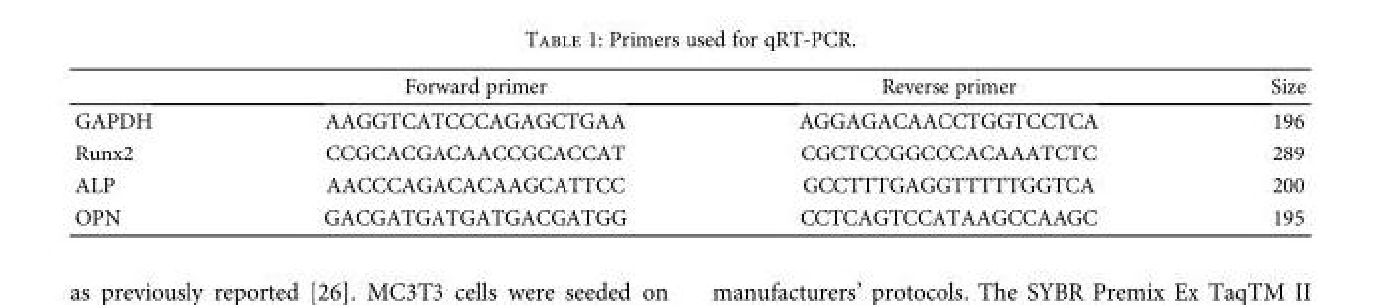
<table><thead><tr><td></td><td>Forward primer</td><td>Reverse primer</td><td>Size</td></tr></thead><tbody><tr><td>GAPDH</td><td>AAGGTCATCCCAGAGCTGAA</td><td>AGGAGACAACCTGGTCCTCA</td><td>196</td></tr><tr><td>Runx2</td><td>CCGCACGACAACCGCACCAT</td><td>CGCTCCGGCCCACAAATCTC</td><td>289</td></tr><tr><td>ALP</td><td>AACCCAGACACAAGCATTCC</td><td>GCCTTTGAGGTTTTTGGTCA</td><td>200</td></tr><tr><td>OPN</td><td>GACGATGATGATGACGATGG</td><td>CCTCAGTCCATAAGCCAAGC</td><td>195</td></tr></tbody></table>